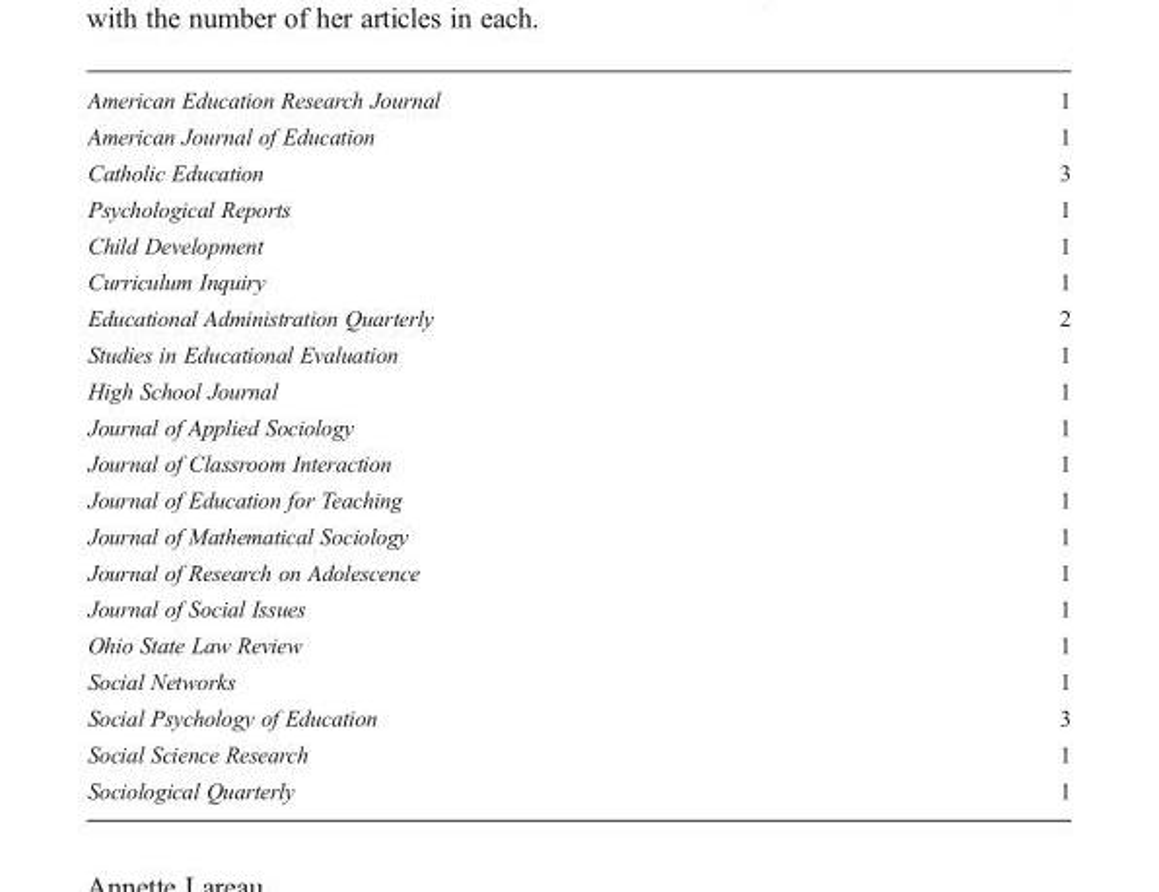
<table><tbody><tr><td>American Education Research Journal</td><td>1</td></tr><tr><td>American Journal of Education</td><td>1</td></tr><tr><td>Catholic Education</td><td>3</td></tr><tr><td>Psychological Reports</td><td>1</td></tr><tr><td>Child Development</td><td>1</td></tr><tr><td>Curriculum Inquiry</td><td>1</td></tr><tr><td>Educational Administration Quarterly</td><td>2</td></tr><tr><td>Studies in Educational Evaluation</td><td>1</td></tr><tr><td>High School Journal</td><td>1</td></tr><tr><td>Journal of Applied Sociology</td><td>1</td></tr><tr><td>Journal of Classroom Interaction</td><td>1</td></tr><tr><td>Journal of Education for Teaching</td><td>1</td></tr><tr><td>Journal of Mathematical Sociology</td><td>1</td></tr><tr><td>Journal of Research on Adolescence</td><td>1</td></tr><tr><td>Journal of Social Issues</td><td>1</td></tr><tr><td>Ohio State Law Review</td><td>1</td></tr><tr><td>Social Networks</td><td>1</td></tr><tr><td>Social Psychology of Education</td><td>3</td></tr><tr><td>Social Science Research</td><td>1</td></tr><tr><td>Sociological Quarterly</td><td>1</td></tr></tbody></table>